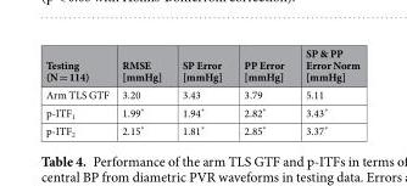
<table><thead><tr><td>Testing (N = 114)</td><td>RMSE [mmHg]</td><td>SP Error [mmHg]</td><td>PP Error [mmHg]</td><td>SP &amp; PP Error Norm [mmHg]</td></tr></thead><tbody><tr><td>Arm TLS GTF</td><td>3.20</td><td>3.43</td><td>3.79</td><td>5.11</td></tr><tr><td>p-ITF<sub>1</sub></td><td>1.99*</td><td>1.94*</td><td>2.82*</td><td>3.43*</td></tr><tr><td>p-ITF<sub>2</sub></td><td>2.15*</td><td>1.81*</td><td>2.85*</td><td>3.37*</td></tr></tbody></table>